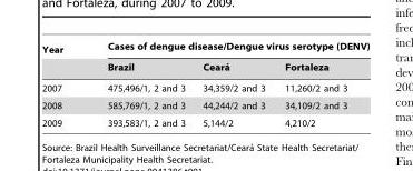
<table><thead><tr><td rowspan="2">Year</td><td colspan="3">Cases of dengue disease/Dengue virus serotype (DENV)</td></tr><tr><td>Brazil</td><td>Ceara´</td><td>Fortaleza</td></tr></thead><tbody><tr><td>2007</td><td>475,496/1, 2 and 3</td><td>34,359/2 and 3</td><td>11,260/2 and 3</td></tr><tr><td>2008</td><td>585,769/1, 2 and 3</td><td>44,244/2 and 3</td><td>34,109/2 and 3</td></tr><tr><td>2009</td><td>393,583/1, 2 and 3</td><td>5,144/2</td><td>4,210/2</td></tr></tbody></table>